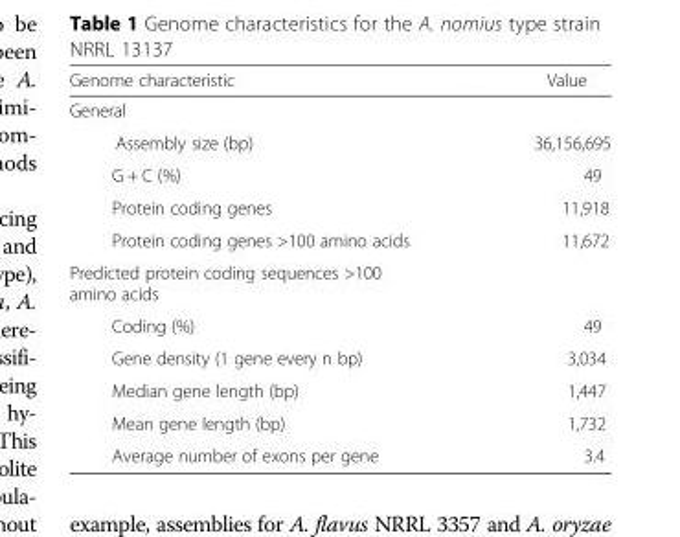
<table><thead><tr><td>Genome characteristic</td><td>Value</td></tr></thead><tbody><tr><td colspan="2">General</td></tr><tr><td>Assembly size (bp)</td><td>36,156,695</td></tr><tr><td>G + C (%)</td><td>49</td></tr><tr><td>Protein coding genes</td><td>11,918</td></tr><tr><td>Protein coding genes &gt;100 amino acids</td><td>11,672</td></tr><tr><td colspan="2">Predicted protein coding sequences &gt;100 amino acids</td></tr><tr><td>Coding (%)</td><td>49</td></tr><tr><td>Gene density (1 gene every n bp)</td><td>3,034</td></tr><tr><td>Median gene length (bp)</td><td>1,447</td></tr><tr><td>Mean gene length (bp)</td><td>1,732</td></tr><tr><td>Average number of exons per gene</td><td>3.4</td></tr></tbody></table>